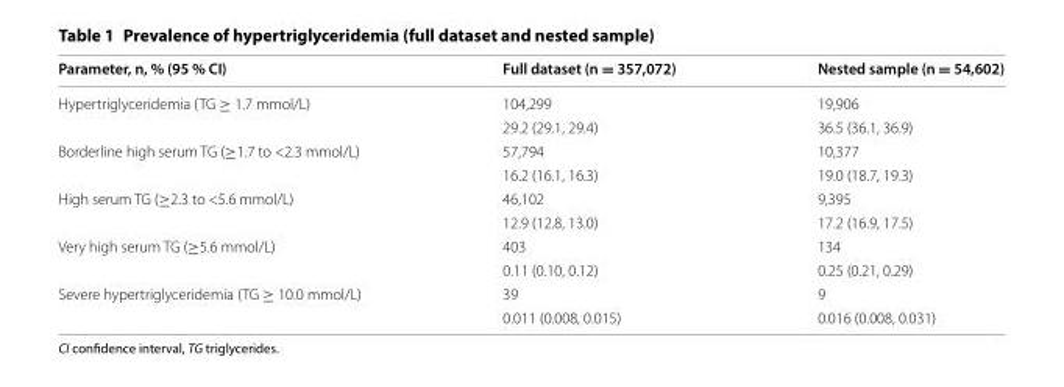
<table><thead><tr><td>Parameter, n, % (95 % CI)</td><td>Full dataset (n = 357,072)</td><td>Nested sample (n = 54,602)</td></tr></thead><tbody><tr><td rowspan="2">Hypertriglyceridemia (TG ≥ 1.7 mmol/L)</td><td>104,299</td><td>19,906</td></tr><tr><td>29.2 (29.1, 29.4)</td><td>36.5 (36.1, 36.9)</td></tr><tr><td rowspan="2">Borderline high serum TG (≥1.7 to &lt;2.3 mmol/L)</td><td>57,794</td><td>10,377</td></tr><tr><td>16.2 (16.1, 16.3)</td><td>19.0 (18.7, 19.3)</td></tr><tr><td rowspan="2">High serum TG (≥2.3 to &lt;5.6 mmol/L)</td><td>46,102</td><td>9,395</td></tr><tr><td>12.9 (12.8, 13.0)</td><td>17.2 (16.9, 17.5)</td></tr><tr><td rowspan="2">Very high serum TG (≥5.6 mmol/L)</td><td>403</td><td>134</td></tr><tr><td>0.11 (0.10, 0.12)</td><td>0.25 (0.21, 0.29)</td></tr><tr><td rowspan="2">Severe hypertriglyceridemia (TG ≥ 10.0 mmol/L)</td><td>39</td><td>9</td></tr><tr><td>0.011 (0.008, 0.015)</td><td>0.016 (0.008, 0.031)</td></tr></tbody></table>